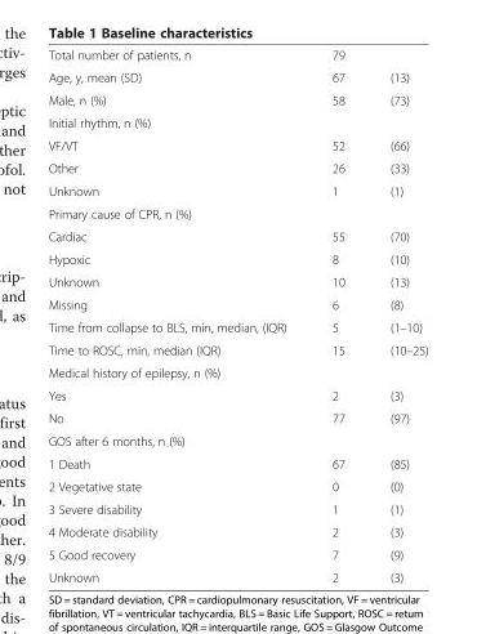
<table><tbody><tr><td>Total number of patients, n</td><td>79</td><td></td></tr><tr><td>Age, y, mean (SD)</td><td>67</td><td>(13)</td></tr><tr><td>Male, n (%)</td><td>58</td><td>(73)</td></tr><tr><td colspan="3">Initial rhythm, n (%)</td></tr><tr><td>VF/VT</td><td>52</td><td>(66)</td></tr><tr><td>Other</td><td>26</td><td>(33)</td></tr><tr><td>Unknown</td><td>1</td><td>(1)</td></tr><tr><td colspan="3">Primary cause of CPR, n (%)</td></tr><tr><td>Cardiac</td><td>55</td><td>(70)</td></tr><tr><td>Hypoxic</td><td>8</td><td>(10)</td></tr><tr><td>Unknown</td><td>10</td><td>(13)</td></tr><tr><td>Missing</td><td>6</td><td>(8)</td></tr><tr><td>Time from collapse to BLS, min, median, (IQR)</td><td>5</td><td>(1–10)</td></tr><tr><td>Time to ROSC, min, median (IQR)</td><td>15</td><td>(10–25)</td></tr><tr><td colspan="3">Medical history of epilepsy, n (%)</td></tr><tr><td>Yes</td><td>2</td><td>(3)</td></tr><tr><td>No</td><td>77</td><td>(97)</td></tr><tr><td colspan="3">GOS after 6 months, n (%)</td></tr><tr><td>1 Death</td><td>67</td><td>(85)</td></tr><tr><td>2 Vegetative state</td><td>0</td><td>(0)</td></tr><tr><td>3 Severe disability</td><td>1</td><td>(1)</td></tr><tr><td>4 Moderate disability</td><td>2</td><td>(3)</td></tr><tr><td>5 Good recovery</td><td>7</td><td>(9)</td></tr><tr><td>Unknown</td><td>2</td><td>(3)</td></tr></tbody></table>